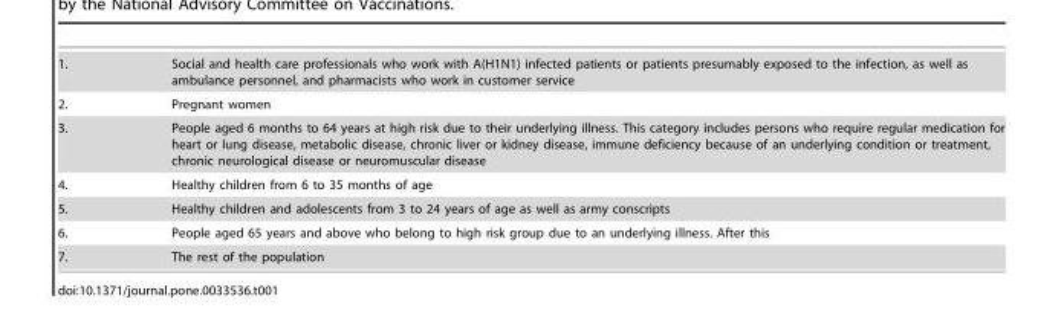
<table><tbody><tr><td>1.</td><td>Social and health care professionals who work with A(H1N1) infected patients or patients presumably exposed to the infection, as well as ambulance personnel, and pharmacists who work in customer service</td></tr><tr><td>2.</td><td>Pregnant women</td></tr><tr><td>3.</td><td>People aged 6 months to 64 years at high risk due to their underlying illness. This category includes persons who require regular medication for heart or lung disease, metabolic disease, chronic liver or kidney disease, immune deficiency because of an underlying condition or treatment, chronic neurological disease or neuromuscular disease</td></tr><tr><td>4.</td><td>Healthy children from 6 to 35 months of age</td></tr><tr><td>5.</td><td>Healthy children and adolescents from 3 to 24 years of age as well as army conscripts</td></tr><tr><td>6.</td><td>People aged 65 years and above who belong to high risk group due to an underlying illness. After this</td></tr><tr><td>7.</td><td>The rest of the population</td></tr></tbody></table>